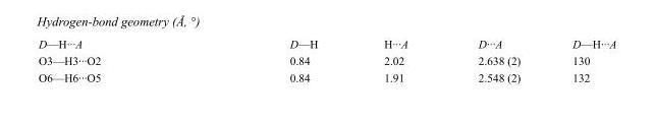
<table><tbody><tr><td>D—H···A</td><td>D—H</td><td>H···A</td><td>D···A</td><td>D—H···A</td></tr><tr><td>O3—H3···O2</td><td>0.84</td><td>2.02</td><td>2.638 (2)</td><td>130</td></tr><tr><td>O6—H6···O5</td><td>0.84</td><td>1.91</td><td>2.548 (2)</td><td>132</td></tr></tbody></table>